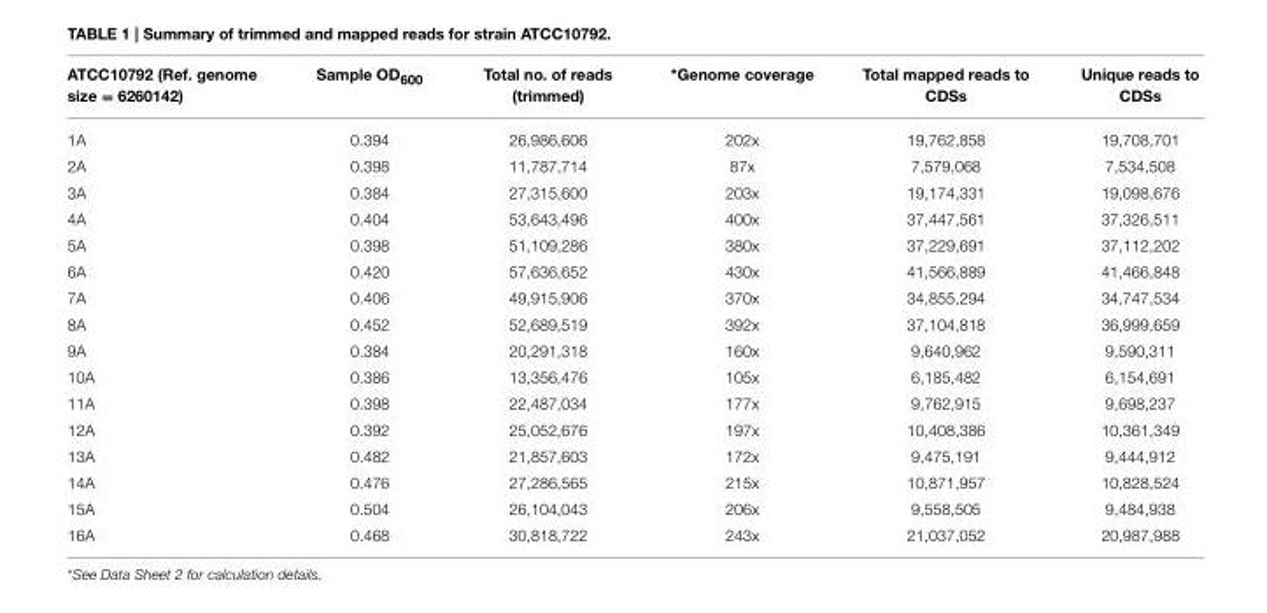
<table><thead><tr><td>ATCC10792 (Ref. genome size = 6260142)</td><td>Sample OD<sub>600</sub></td><td>Total no. of reads (trimmed)</td><td>*Genome coverage</td><td>Total mapped reads to CDSs</td><td>Unique reads to CDSs</td></tr></thead><tbody><tr><td>1A</td><td>0.394</td><td>26,986,606</td><td>202x</td><td>19,762,858</td><td>19,708,701</td></tr><tr><td>2A</td><td>0.398</td><td>11,787,714</td><td>87x</td><td>7,579,068</td><td>7,534,508</td></tr><tr><td>3A</td><td>0.384</td><td>27,315,600</td><td>203x</td><td>19,174,331</td><td>19,098,676</td></tr><tr><td>4A</td><td>0.404</td><td>53,643,496</td><td>400x</td><td>37,447,561</td><td>37,326,511</td></tr><tr><td>5A</td><td>0.398</td><td>51,109,286</td><td>380x</td><td>37,229,691</td><td>37,112,202</td></tr><tr><td>6A</td><td>0.420</td><td>57,636,652</td><td>430x</td><td>41,566,889</td><td>41,466,848</td></tr><tr><td>7A</td><td>0.406</td><td>49,915,906</td><td>370x</td><td>34,855,294</td><td>34,747,534</td></tr><tr><td>8A</td><td>0.452</td><td>52,689,519</td><td>392x</td><td>37,104,818</td><td>36,999,659</td></tr><tr><td>9A</td><td>0.384</td><td>20,291,318</td><td>160x</td><td>9,640,962</td><td>9,590,311</td></tr><tr><td>10A</td><td>0.386</td><td>13,356,476</td><td>105x</td><td>6,185,482</td><td>6,154,691</td></tr><tr><td>11A</td><td>0.398</td><td>22,487,034</td><td>177x</td><td>9,762,915</td><td>9,698,237</td></tr><tr><td>12A</td><td>0.392</td><td>25,052,676</td><td>197x</td><td>10,408,386</td><td>10,361,349</td></tr><tr><td>13A</td><td>0.482</td><td>21,857,603</td><td>172x</td><td>9,475,191</td><td>9,444,912</td></tr><tr><td>14A</td><td>0.476</td><td>27,286,565</td><td>215x</td><td>10,871,957</td><td>10,828,524</td></tr><tr><td>15A</td><td>0.504</td><td>26,104,043</td><td>206x</td><td>9,558,505</td><td>9,484,938</td></tr><tr><td>16A</td><td>0.468</td><td>30,818,722</td><td>243x</td><td>21,037,052</td><td>20,987,988</td></tr></tbody></table>